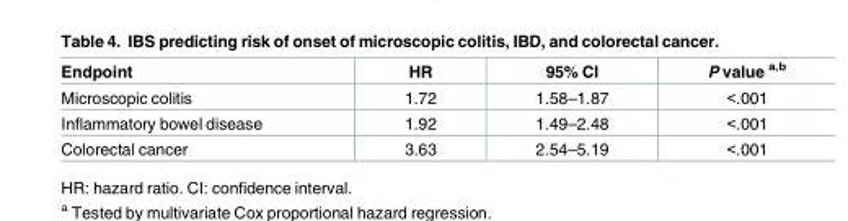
<table><thead><tr><td>Endpoint</td><td>HR</td><td>95% CI</td><td>P value <sup>a,b</sup></td></tr></thead><tbody><tr><td>Microscopic colitis</td><td>1.72</td><td>1.58–1.87</td><td>&lt;.001</td></tr><tr><td>Inflammatory bowel disease</td><td>1.92</td><td>1.49–2.48</td><td>&lt;.001</td></tr><tr><td>Colorectal cancer</td><td>3.63</td><td>2.54–5.19</td><td>&lt;.001</td></tr></tbody></table>